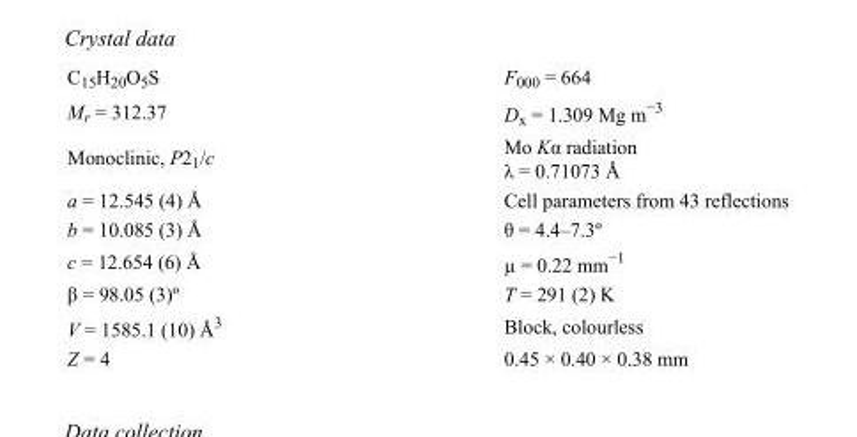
<table><tbody><tr><td>C<sub>15</sub>H<sub>20</sub>O<sub>5</sub>S</td><td>F<sub>000</sub> = 664</td></tr><tr><td>M<sub>r</sub> = 312.37</td><td>D<sub>x</sub> = 1.309 Mg m<sup>−3</sup></td></tr><tr><td>Monoclinic, P2<sub>1</sub>/c</td><td>Mo Kα radiation λ = 0.71073 Å</td></tr><tr><td>a = 12.545 (4) Å</td><td>Cell parameters from 43 reflections</td></tr><tr><td>b = 10.085 (3) Å</td><td>θ = 4.4–7.3º</td></tr><tr><td>c = 12.654 (6) Å</td><td>µ = 0.22 mm<sup>−1</sup></td></tr><tr><td>β = 98.05 (3)º</td><td>T = 291 (2) K</td></tr><tr><td>V = 1585.1 (10) Å<sup>3</sup></td><td>Block, colourless</td></tr><tr><td>Z = 4</td><td>0.45 × 0.40 × 0.38 mm</td></tr></tbody></table>